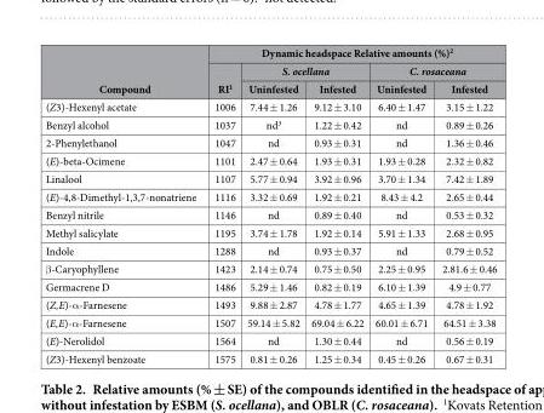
<table><thead><tr><td rowspan="3">Compound</td><td colspan="5">Dynamic headspace Relative amounts (%)<sup>2</sup></td></tr><tr><td rowspan="2">RI<sup>1</sup></td><td colspan="2">S. ocellana</td><td colspan="2">C. rosaceana</td></tr><tr><td>Uninfested</td><td>Infested</td><td>Uninfested</td><td>Infested</td></tr></thead><tbody><tr><td>(Z3)-Hexenyl acetate</td><td>1006</td><td>7.44 ± 1.26</td><td>9.12 ± 3.10</td><td>6.40 ± 1.47</td><td>3.15 ± 1.22</td></tr><tr><td>Benzyl alcohol</td><td>1037</td><td>nd<sup>3</sup></td><td>1.22 ± 0.42</td><td>nd</td><td>0.89 ± 0.26</td></tr><tr><td>2-Phenylethanol</td><td>1047</td><td>nd</td><td>0.93 ± 0.31</td><td>nd</td><td>1.36 ± 0.46</td></tr><tr><td>(E)-beta-Ocimene</td><td>1101</td><td>2.47 ± 0.64</td><td>1.93 ± 0.31</td><td>1.93 ± 0.28</td><td>2.32 ± 0.82</td></tr><tr><td>Linalool</td><td>1107</td><td>5.77 ± 0.94</td><td>3.92 ± 0.96</td><td>3.70 ± 1.34</td><td>7.42 ± 1.89</td></tr><tr><td>(E)-4,8-Dimethyl-1,3,7-nonatriene</td><td>1116</td><td>3.32 ± 0.69</td><td>1.92 ± 0.21</td><td>8.43 ± 4.2</td><td>2.65 ± 0.44</td></tr><tr><td>Benzyl nitrile</td><td>1146</td><td>nd</td><td>0.89 ± 0.40</td><td>nd</td><td>0.53 ± 0.32</td></tr><tr><td>Methyl salicylate</td><td>1195</td><td>3.74 ± 1.78</td><td>1.92 ± 0.14</td><td>5.91 ± 1.33</td><td>2.68 ± 0.95</td></tr><tr><td>Indole</td><td>1288</td><td>nd</td><td>0.93 ± 0.37</td><td>nd</td><td>0.79 ± 0.52</td></tr><tr><td>β -Caryophyllene</td><td>1423</td><td>2.14 ± 0.74</td><td>0.75 ± 0.50</td><td>2.25 ± 0.95</td><td>2.81.6 ± 0.46</td></tr><tr><td>Germacrene D</td><td>1486</td><td>5.29 ± 1.46</td><td>0.82 ± 0.19</td><td>6.10 ± 1.39</td><td>4.9 ± 0.77</td></tr><tr><td>(Z,E)-α -Farnesene</td><td>1493</td><td>9.88 ± 2.87</td><td>4.78 ± 1.77</td><td>4.65 ± 1.39</td><td>4.78 ± 1.92</td></tr><tr><td>(E,E)-α -Farnesene</td><td>1507</td><td>59.14 ± 5.82</td><td>69.04 ± 6.22</td><td>60.01 ± 6.71</td><td>64.51 ± 3.38</td></tr><tr><td>(E)-Nerolidol</td><td>1564</td><td>nd</td><td>1.30 ± 0.44</td><td>nd</td><td>0.56 ± 0.19</td></tr><tr><td>(Z3)-Hexenyl benzoate</td><td>1575</td><td>0.81 ± 0.26</td><td>1.25 ± 0.34</td><td>0.45 ± 0.26</td><td>0.67 ± 0.31</td></tr></tbody></table>